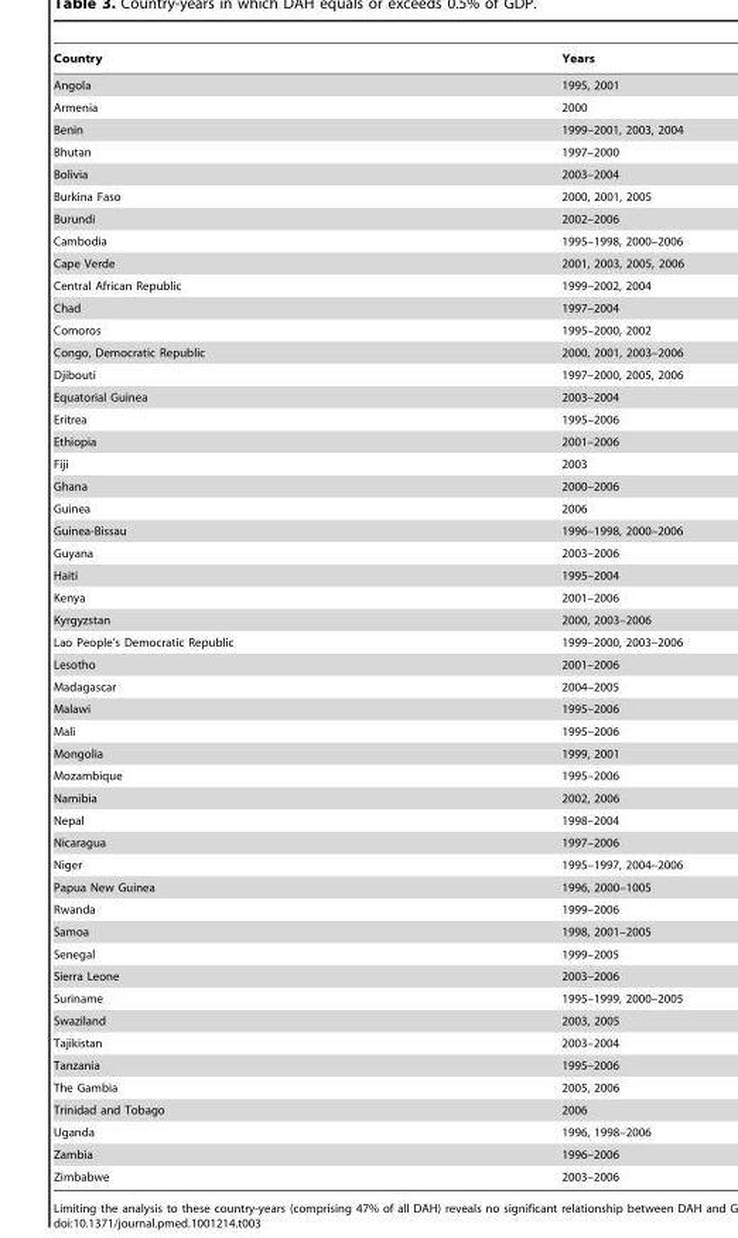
<table><thead><tr><td>Country</td><td>Years</td></tr></thead><tbody><tr><td>Angola</td><td>1995, 2001</td></tr><tr><td>Armenia</td><td>2000</td></tr><tr><td>Benin</td><td>1999–2001, 2003, 2004</td></tr><tr><td>Bhutan</td><td>1997–2000</td></tr><tr><td>Bolivia</td><td>2003–2004</td></tr><tr><td>Burkina Faso</td><td>2000, 2001, 2005</td></tr><tr><td>Burundi</td><td>2002–2006</td></tr><tr><td>Cambodia</td><td>1995–1998, 2000–2006</td></tr><tr><td>Cape Verde</td><td>2001, 2003, 2005, 2006</td></tr><tr><td>Central African Republic</td><td>1999–2002, 2004</td></tr><tr><td>Chad</td><td>1997–2004</td></tr><tr><td>Comoros</td><td>1995–2000, 2002</td></tr><tr><td>Congo, Democratic Republic</td><td>2000, 2001, 2003–2006</td></tr><tr><td>Djibouti</td><td>1997–2000, 2005, 2006</td></tr><tr><td>Equatorial Guinea</td><td>2003–2004</td></tr><tr><td>Eritrea</td><td>1995–2006</td></tr><tr><td>Ethiopia</td><td>2001–2006</td></tr><tr><td>Fiji</td><td>2003</td></tr><tr><td>Ghana</td><td>2000–2006</td></tr><tr><td>Guinea</td><td>2006</td></tr><tr><td>Guinea-Bissau</td><td>1996–1998, 2000–2006</td></tr><tr><td>Guyana</td><td>2003–2006</td></tr><tr><td>Haiti</td><td>1995–2004</td></tr><tr><td>Kenya</td><td>2001–2006</td></tr><tr><td>Kyrgyzstan</td><td>2000, 2003–2006</td></tr><tr><td>Lao People’s Democratic Republic</td><td>1999–2000, 2003–2006</td></tr><tr><td>Lesotho</td><td>2001–2006</td></tr><tr><td>Madagascar</td><td>2004–2005</td></tr><tr><td>Malawi</td><td>1995–2006</td></tr><tr><td>Mali</td><td>1995–2006</td></tr><tr><td>Mongolia</td><td>1999, 2001</td></tr><tr><td>Mozambique</td><td>1995–2006</td></tr><tr><td>Namibia</td><td>2002, 2006</td></tr><tr><td>Nepal</td><td>1998–2004</td></tr><tr><td>Nicaragua</td><td>1997–2006</td></tr><tr><td>Niger</td><td>1995–1997, 2004–2006</td></tr><tr><td>Papua New Guinea</td><td>1996, 2000–1005</td></tr><tr><td>Rwanda</td><td>1999–2006</td></tr><tr><td>Samoa</td><td>1998, 2001–2005</td></tr><tr><td>Senegal</td><td>1999–2005</td></tr><tr><td>Sierra Leone</td><td>2003–2006</td></tr><tr><td>Suriname</td><td>1995–1999, 2000–2005</td></tr><tr><td>Swaziland</td><td>2003, 2005</td></tr><tr><td>Tajikistan</td><td>2003–2004</td></tr><tr><td>Tanzania</td><td>1995–2006</td></tr><tr><td>The Gambia</td><td>2005, 2006</td></tr><tr><td>Trinidad and Tobago</td><td>2006</td></tr><tr><td>Uganda</td><td>1996, 1998–2006</td></tr><tr><td>Zambia</td><td>1996–2006</td></tr><tr><td>Zimbabwe</td><td>2003–2006</td></tr></tbody></table>